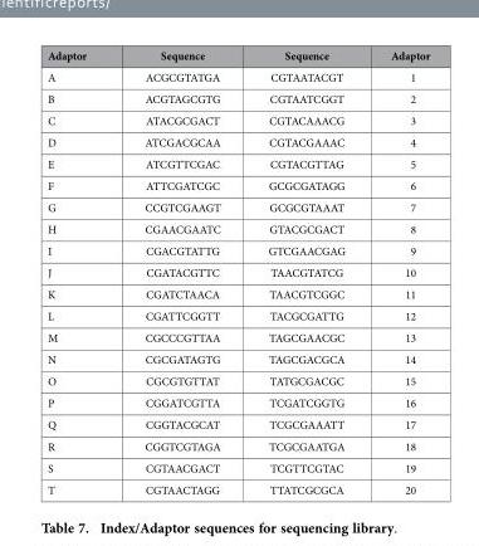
<table><thead><tr><td>Adaptor</td><td>Sequence</td><td>Sequence</td><td>Adaptor</td></tr></thead><tbody><tr><td>A</td><td>ACGCGTATGA</td><td>CGTAATACGT</td><td>1</td></tr><tr><td>B</td><td>ACGTAGCGTG</td><td>CGTAATCGGT</td><td>2</td></tr><tr><td>C</td><td>ATACGCGACT</td><td>CGTACAAACG</td><td>3</td></tr><tr><td>D</td><td>ATCGACGCAA</td><td>CGTACGAAAC</td><td>4</td></tr><tr><td>E</td><td>ATCGTTCGAC</td><td>CGTACGTTAG</td><td>5</td></tr><tr><td>F</td><td>ATTCGATCGC</td><td>GCGCGATAGG</td><td>6</td></tr><tr><td>G</td><td>CCGTCGAAGT</td><td>GCGCGTAAAT</td><td>7</td></tr><tr><td>H</td><td>CGAACGAATC</td><td>GTACGCGACT</td><td>8</td></tr><tr><td>I</td><td>CGACGTATTG</td><td>GTCGAACGAG</td><td>9</td></tr><tr><td>J</td><td>CGATACGTTC</td><td>TAACGTATCG</td><td>10</td></tr><tr><td>K</td><td>CGATCTAACA</td><td>TAACGTCGGC</td><td>11</td></tr><tr><td>L</td><td>CGATTCGGTT</td><td>TACGCGATTG</td><td>12</td></tr><tr><td>M</td><td>CGCCCGTTAA</td><td>TAGCGAACGC</td><td>13</td></tr><tr><td>N</td><td>CGCGATAGTG</td><td>TAGCGACGCA</td><td>14</td></tr><tr><td>O</td><td>CGCGTGTTAT</td><td>TATGCGACGC</td><td>15</td></tr><tr><td>P</td><td>CGGATCGTTA</td><td>TCGATCGGTG</td><td>16</td></tr><tr><td>Q</td><td>CGGTACGCAT</td><td>TCGCGAAATT</td><td>17</td></tr><tr><td>R</td><td>CGGTCGTAGA</td><td>TCGCGAATGA</td><td>18</td></tr><tr><td>S</td><td>CGTAACGACT</td><td>TCGTTCGTAC</td><td>19</td></tr><tr><td>T</td><td>CGTAACTAGG</td><td>TTATCGCGCA</td><td>20</td></tr></tbody></table>